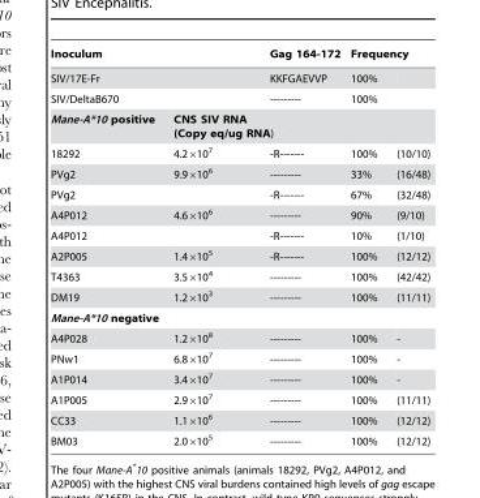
<table><thead><tr><td colspan="2">Inoculum</td><td>Gag 164-172</td><td colspan="2">Frequency</td></tr></thead><tbody><tr><td colspan="2">SIV/17E-Fr</td><td>KKFGAEVVP</td><td>100%</td><td></td></tr><tr><td colspan="2">SIV/DeltaB670</td><td>---------</td><td>100%</td><td></td></tr><tr><td>Mane-A*10 positive</td><td colspan="4">CNS SIV RNA (Copy eq/ug RNA)</td></tr><tr><td>18292</td><td>4.2×10<sup>7</sup></td><td>-R-------</td><td>100%</td><td>(10/10)</td></tr><tr><td>PVg2</td><td>9.9×10<sup>6</sup></td><td>---------</td><td>33%</td><td>(16/48)</td></tr><tr><td>PVg2</td><td></td><td>-R-------</td><td>67%</td><td>(32/48)</td></tr><tr><td>A4P012</td><td>4.6×10<sup>6</sup></td><td>---------</td><td>90%</td><td>(9/10)</td></tr><tr><td>A4P012</td><td></td><td>-R-------</td><td>10%</td><td>(1/10)</td></tr><tr><td>A2P005</td><td>1.4×10<sup>5</sup></td><td>-R-------</td><td>100%</td><td>(12/12)</td></tr><tr><td>T4363</td><td>3.5×10<sup>4</sup></td><td>---------</td><td>100%</td><td>(42/42)</td></tr><tr><td>DM19</td><td>1.2×10<sup>3</sup></td><td>---------</td><td>100%</td><td>(11/11)</td></tr><tr><td colspan="5">Mane-A*10 negative</td></tr><tr><td>A4P028</td><td>1.2×10<sup>8</sup></td><td>---------</td><td>100%</td><td>-</td></tr><tr><td>PNw1</td><td>6.8×10<sup>7</sup></td><td>---------</td><td>100%</td><td>-</td></tr><tr><td>A1P014</td><td>3.4×10<sup>7</sup></td><td>---------</td><td>100%</td><td>-</td></tr><tr><td>A1P005</td><td>2.9×10<sup>7</sup></td><td>---------</td><td>100%</td><td>(11/11)</td></tr><tr><td>CC33</td><td>1.1×10<sup>6</sup></td><td>---------</td><td>100%</td><td>(12/12)</td></tr><tr><td>BM03</td><td>2.0×10<sup>5</sup></td><td>---------</td><td>100%</td><td>(12/12)</td></tr></tbody></table>